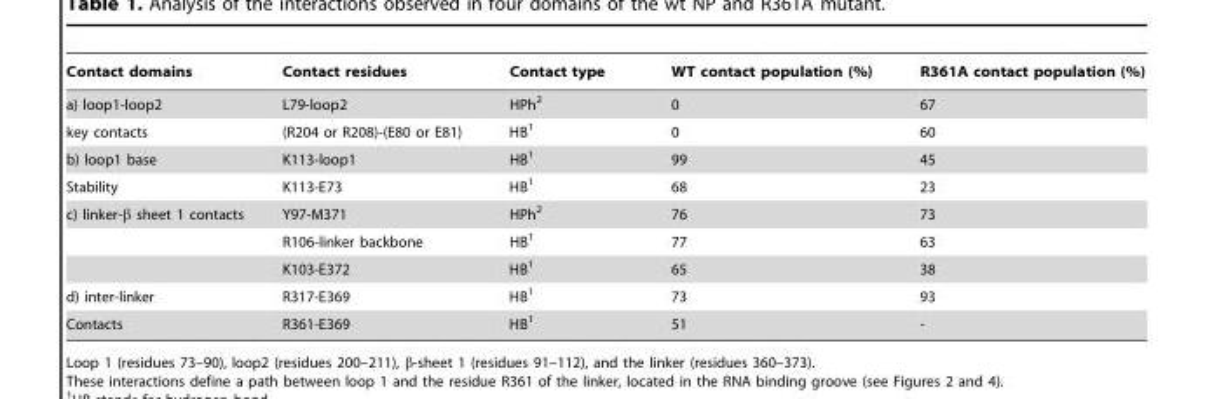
<table><thead><tr><td>Contact domains</td><td>Contact residues</td><td>Contact type</td><td>WT contact population (%)</td><td>R361A contact population (%)</td></tr></thead><tbody><tr><td>a) loop1-loop2</td><td>L79-loop2</td><td>HPh<sup>2</sup></td><td>0</td><td>67</td></tr><tr><td>key contacts</td><td>(R204 or R208)-(E80 or E81)</td><td>HB<sup>1</sup></td><td>0</td><td>60</td></tr><tr><td>b) loop1 base</td><td>K113-loop1</td><td>HB<sup>1</sup></td><td>99</td><td>45</td></tr><tr><td>Stability</td><td>K113-E73</td><td>HB<sup>1</sup></td><td>68</td><td>23</td></tr><tr><td rowspan="3">c) linker-β sheet 1 contacts</td><td>Y97-M371</td><td>HPh<sup>2</sup></td><td>76</td><td>73</td></tr><tr><td>R106-linker backbone</td><td>HB<sup>1</sup></td><td>77</td><td>63</td></tr><tr><td>K103-E372</td><td>HB<sup>1</sup></td><td>65</td><td>38</td></tr><tr><td>d) inter-linker</td><td>R317-E369</td><td>HB<sup>1</sup></td><td>73</td><td>93</td></tr><tr><td>Contacts</td><td>R361-E369</td><td>HB<sup>1</sup></td><td>51</td><td>-</td></tr></tbody></table>